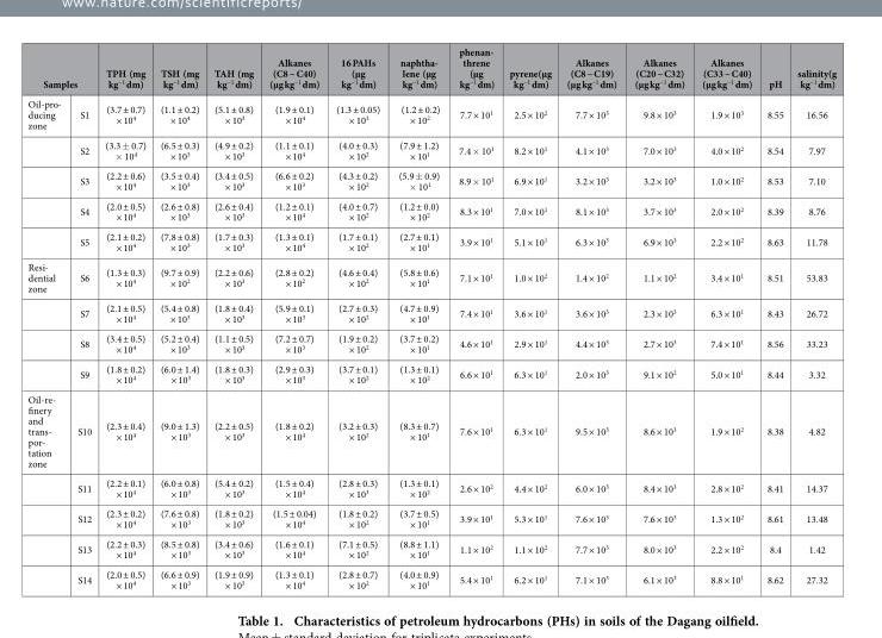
<table><thead><tr><td colspan="2">Samples</td><td rowspan="2">TPH (mg kg<sup>−1</sup> dm) (3.7 ± 0.7) × 10<sup>4</sup></td><td rowspan="2">TSH (mg kg<sup>−1</sup> dm) (1.1 ± 0.2) × 10<sup>4</sup></td><td rowspan="2">TAH (mg kg<sup>−1</sup> dm) (5.1 ± 0.8) × 10<sup>3</sup></td><td rowspan="2">Alkanes (C8 ~ C40) (μg kg<sup>−1</sup> dm) (1.9 ± 0.1) × 10<sup>4</sup></td><td rowspan="2">16 PAHs (μg kg<sup>−1</sup> dm) (1.3 ± 0.05) × 10<sup>3</sup></td><td rowspan="2">naphtha- lene (μg kg−1 dm) (1.2 ± 0.2) × 102</td><td rowspan="2">phenan- threne (μg kg−1 dm) 7.7 × 101</td><td rowspan="2">pyrene(μg kg<sup>−1</sup> dm) 2.5 × 10<sup>2</sup></td><td rowspan="2">Alkanes (C8 ~ C19) (μg kg<sup>−1</sup> dm) 7.7 × 10<sup>3</sup></td><td rowspan="2">Alkanes (C20 ~ C32) (μg kg<sup>−1</sup> dm) 9.8 × 10<sup>3</sup></td><td rowspan="2">Alkanes (C33 ~ C40) (μg kg<sup>−1</sup> dm) 1.9 × 10<sup>3</sup></td><td rowspan="2">pH 8.55</td><td rowspan="2">salinity(g kg<sup>−1</sup> dm) 16.56</td></tr><tr><td>Oil-pro- ducing zone</td><td>S1</td></tr></thead><tbody><tr><td></td><td>S2</td><td>(3.3 ± 0.7) × 10<sup>4</sup></td><td>(6.5 ± 0.3) × 10<sup>3</sup></td><td>(4.9 ± 0.2) × 10<sup>3</sup></td><td>(1.1 ± 0.1) × 10<sup>4</sup></td><td>(4.0 ± 0.3) × 10<sup>2</sup></td><td>(7.9 ± 1.2) × 10<sup>1</sup></td><td>7.4 × 10<sup>1</sup></td><td>8.2 × 10<sup>1</sup></td><td>4.1 × 10<sup>3</sup></td><td>7.0 × 10<sup>3</sup></td><td>4.0 × 10<sup>2</sup></td><td>8.54</td><td>7.97</td></tr><tr><td></td><td>S3</td><td>(2.2 ± 0.6) × 10<sup>4</sup></td><td>(3.5 ± 0.4) × 10<sup>3</sup></td><td>(3.4 ± 0.5) × 10<sup>3</sup></td><td>(6.6 ± 0.2) × 10<sup>3</sup></td><td>(4.3 ± 0.2) × 10<sup>2</sup></td><td>(5.9 ± 0.9) × 10<sup>1</sup></td><td>8.9 × 10<sup>1</sup></td><td>6.9 × 10<sup>1</sup></td><td>3.2 × 10<sup>3</sup></td><td>3.2 × 10<sup>3</sup></td><td>1.0 × 10<sup>2</sup></td><td>8.53</td><td>7.10</td></tr><tr><td></td><td>S4</td><td>(2.0 ± 0.5) × 10<sup>4</sup></td><td>(2.6 ± 0.8) × 10<sup>3</sup></td><td>(2.6 ± 0.4) × 10<sup>3</sup></td><td>(1.2 ± 0.1) × 10<sup>4</sup></td><td>(4.0 ± 0.7) × 10<sup>2</sup></td><td>(1.2 ± 0.0) × 10<sup>2</sup></td><td>8.3 × 10<sup>1</sup></td><td>7.0 × 10<sup>1</sup></td><td>8.1 × 10<sup>3</sup></td><td>3.7 × 10<sup>3</sup></td><td>2.0 × 10<sup>2</sup></td><td>8.39</td><td>8.76</td></tr><tr><td></td><td>S5</td><td>(2.1 ± 0.2) × 10<sup>4</sup></td><td>(7.8 ± 0.8) × 10<sup>3</sup></td><td>(1.7 ± 0.3) × 10<sup>3</sup></td><td>(1.3 ± 0.1) × 10<sup>4</sup></td><td>(1.7 ± 0.1) × 10<sup>2</sup></td><td>(2.7 ± 0.1) × 10<sup>1</sup></td><td>3.9 × 10<sup>1</sup></td><td>5.1 × 10<sup>1</sup></td><td>6.3 × 10<sup>3</sup></td><td>6.9 × 10<sup>3</sup></td><td>2.2 × 10<sup>2</sup></td><td>8.63</td><td>11.78</td></tr><tr><td rowspan="4">Resi- dential zone</td><td>S6</td><td>(1.3 ± 0.3) × 10<sup>4</sup></td><td>(9.7 ± 0.9) × 10<sup>2</sup></td><td>(2.2 ± 0.6) × 10<sup>3</sup></td><td>(2.8 ± 0.2) × 10<sup>2</sup></td><td>(4.6 ± 0.4) × 10<sup>2</sup></td><td>(5.8 ± 0.6) × 10<sup>1</sup></td><td>7.1 × 10<sup>1</sup></td><td>1.0 × 10<sup>2</sup></td><td>1.4 × 10<sup>2</sup></td><td>1.1 × 10<sup>2</sup></td><td>3.4 × 10<sup>1</sup></td><td>8.51</td><td>53.83</td></tr><tr><td>S7</td><td>(2.1 ± 0.5) × 10<sup>4</sup></td><td>(5.4 ± 0.8) × 10<sup>3</sup></td><td>(1.8 ± 0.4) × 10<sup>3</sup></td><td>(5.9 ± 0.1) × 10<sup>3</sup></td><td>(2.7 ± 0.3) × 10<sup>2</sup></td><td>(4.7 ± 0.9) × 10<sup>1</sup></td><td>7.4 × 10<sup>1</sup></td><td>3.6 × 10<sup>1</sup></td><td>3.6 × 10<sup>3</sup></td><td>2.3 × 10<sup>3</sup></td><td>6.3 × 10<sup>1</sup></td><td>8.43</td><td>26.72</td></tr><tr><td>S8</td><td>(3.4 ± 0.5) × 10<sup>4</sup></td><td>(5.2 ± 0.4) × 10<sup>3</sup></td><td>(1.1 ± 0.5) × 10<sup>3</sup></td><td>(7.2 ± 0.7) × 10<sup>3</sup></td><td>(1.9 ± 0.2) × 10<sup>2</sup></td><td>(3.7 ± 0.2) × 10<sup>1</sup></td><td>4.6 × 10<sup>1</sup></td><td>2.9 × 10<sup>1</sup></td><td>4.4 × 10<sup>3</sup></td><td>2.7 × 10<sup>3</sup></td><td>7.4 × 10<sup>1</sup></td><td>8.56</td><td>33.23</td></tr><tr><td>S9</td><td>(1.8 ± 0.2) × 10<sup>4</sup></td><td>(6.0 ± 1.4) × 10<sup>3</sup></td><td>(1.8 ± 0.3) × 10<sup>3</sup></td><td>(2.9 ± 0.3) × 10<sup>3</sup></td><td>(3.7 ± 0.1) × 10<sup>2</sup></td><td>(1.3 ± 0.1) × 10<sup>2</sup></td><td>6.6 × 10<sup>1</sup></td><td>6.3 × 10<sup>1</sup></td><td>2.0 × 10<sup>3</sup></td><td>9.1 × 10<sup>2</sup></td><td>5.0 × 10<sup>1</sup></td><td>8.44</td><td>3.32</td></tr><tr><td rowspan="5">Oil-re- finery and trans- por- tation zone</td><td>S10</td><td>(2.3 ± 0.4) × 10<sup>4</sup></td><td>(9.0 ± 1.3) × 10<sup>3</sup></td><td>(2.2 ± 0.5) × 10<sup>3</sup></td><td>(1.8 ± 0.2) × 10<sup>4</sup></td><td>(3.2 ± 0.3) × 10<sup>2</sup></td><td>(8.3 ± 0.7) × 10<sup>1</sup></td><td>7.6 × 10<sup>1</sup></td><td>6.3 × 10<sup>1</sup></td><td>9.5 × 10<sup>3</sup></td><td>8.6 × 10<sup>3</sup></td><td>1.9 × 10<sup>2</sup></td><td>8.38</td><td>4.82</td></tr><tr><td>S11</td><td>(2.2 ± 0.1) × 10<sup>4</sup></td><td>(6.0 ± 0.8) × 10<sup>3</sup></td><td>(5.4 ± 0.2) × 10<sup>3</sup></td><td>(1.5 ± 0.4) × 10<sup>4</sup></td><td>(2.8 ± 0.3) × 10<sup>3</sup></td><td>(1.3 ± 0.1) × 10<sup>2</sup></td><td>2.6 × 10<sup>2</sup></td><td>4.4 × 10<sup>2</sup></td><td>6.0 × 10<sup>3</sup></td><td>8.4 × 10<sup>3</sup></td><td>2.8 × 10<sup>2</sup></td><td>8.41</td><td>14.37</td></tr><tr><td>S12</td><td>(2.3 ± 0.2) × 10<sup>4</sup></td><td>(7.6 ± 0.8) × 10<sup>3</sup></td><td>(1.8 ± 0.2) × 10<sup>3</sup></td><td>(1.5 ± 0.04) × 10<sup>4</sup></td><td>(1.8 ± 0.2) × 10<sup>2</sup></td><td>(3.7 ± 0.5) × 10<sup>1</sup></td><td>3.9 × 10<sup>1</sup></td><td>5.3 × 10<sup>1</sup></td><td>7.6 × 10<sup>3</sup></td><td>7.6 × 10<sup>3</sup></td><td>1.3 × 10<sup>2</sup></td><td>8.61</td><td>13.48</td></tr><tr><td>S13</td><td>(2.2 ± 0.3) × 10<sup>4</sup></td><td>(8.5 ± 0.8) × 10<sup>3</sup></td><td>(3.4 ± 0.6) × 10<sup>3</sup></td><td>(1.6 ± 0.1) × 10<sup>4</sup></td><td>(7.1 ± 0.5) × 10<sup>2</sup></td><td>(8.8 ± 1.1) × 10<sup>1</sup></td><td>1.1 × 10<sup>2</sup></td><td>1.1 × 10<sup>2</sup></td><td>7.7 × 10<sup>3</sup></td><td>8.0 × 10<sup>3</sup></td><td>2.2 × 10<sup>2</sup></td><td>8.4</td><td>1.42</td></tr><tr><td>S14</td><td>(2.0 ± 0.5) × 10<sup>4</sup></td><td>(6.6 ± 0.9) × 10<sup>3</sup></td><td>(1.9 ± 0.9) × 10<sup>3</sup></td><td>(1.3 ± 0.1) × 10<sup>4</sup></td><td>(2.8 ± 0.7) × 10<sup>2</sup></td><td>(4.0 ± 0.9) × 10<sup>1</sup></td><td>5.4 × 10<sup>1</sup></td><td>6.2 × 10<sup>1</sup></td><td>7.1 × 10<sup>3</sup></td><td>6.1 × 10<sup>3</sup></td><td>8.8 × 10<sup>1</sup></td><td>8.62</td><td>27.32</td></tr></tbody></table>